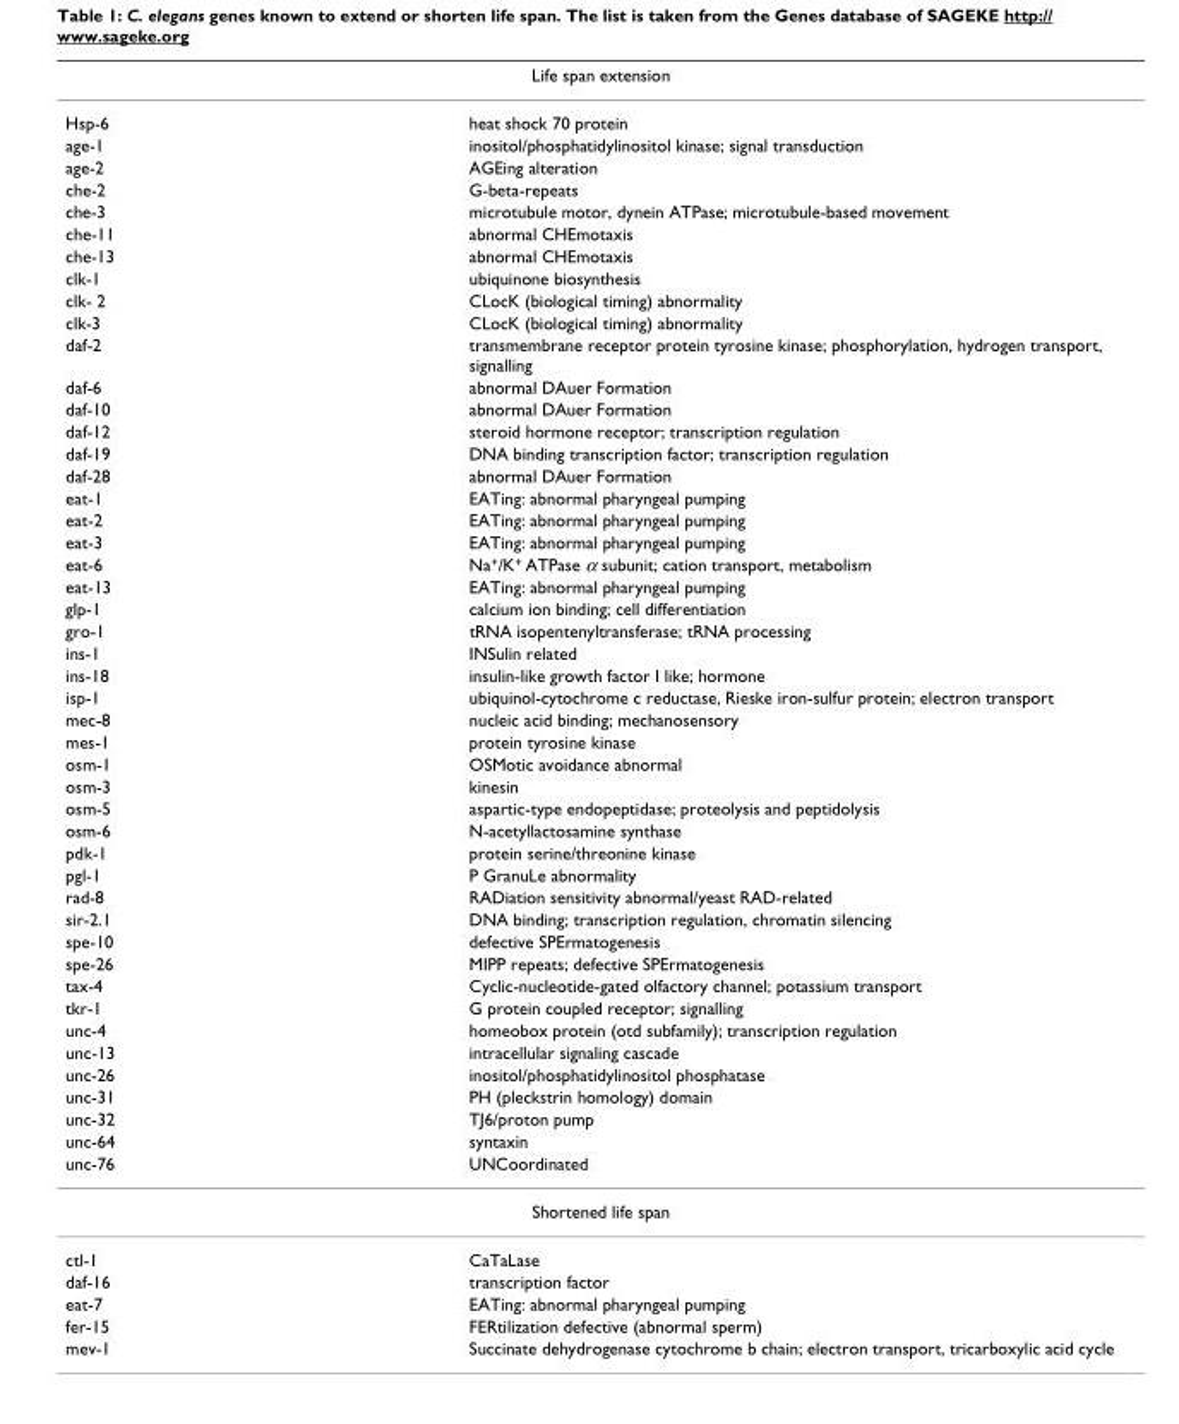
<table><thead><tr><td colspan="2">Life span extension</td></tr><tr><td>Hsp-6</td><td>heat shock 70 protein</td></tr></thead><tbody><tr><td>age-1</td><td>inositol/phosphatidylinositol kinase; signal transduction</td></tr><tr><td>age-2</td><td>AGEing alteration</td></tr><tr><td>che-2</td><td>G-beta-repeats</td></tr><tr><td>che-3</td><td>microtubule motor, dynein ATPase; microtubule-based movement</td></tr><tr><td>che-11</td><td>abnormal CHEmotaxis</td></tr><tr><td>che-13</td><td>abnormal CHEmotaxis</td></tr><tr><td>clk-1</td><td>ubiquinone biosynthesis</td></tr><tr><td>clk- 2</td><td>CLocK (biological timing) abnormality</td></tr><tr><td>clk-3</td><td>CLocK (biological timing) abnormality</td></tr><tr><td>daf-2</td><td>transmembrane receptor protein tyrosine kinase; phosphorylation, hydrogen transport, signalling</td></tr><tr><td>daf-6</td><td>abnormal DAuer Formation</td></tr><tr><td>daf-10</td><td>abnormal DAuer Formation</td></tr><tr><td>daf-12</td><td>steroid hormone receptor; transcription regulation</td></tr><tr><td>daf-19</td><td>DNA binding transcription factor; transcription regulation</td></tr><tr><td>daf-28</td><td>abnormal DAuer Formation</td></tr><tr><td>eat-1</td><td>EATing: abnormal pharyngeal pumping</td></tr><tr><td>eat-2</td><td>EATing: abnormal pharyngeal pumping</td></tr><tr><td>eat-3</td><td>EATing: abnormal pharyngeal pumping</td></tr><tr><td>eat-6</td><td>Na<sup>+</sup>/K<sup>+</sup> ATPase α subunit; cation transport, metabolism</td></tr><tr><td>eat-13</td><td>EATing: abnormal pharyngeal pumping</td></tr><tr><td>glp-1</td><td>calcium ion binding; cell differentiation</td></tr><tr><td>gro-1</td><td>tRNA isopentenyltransferase; tRNA processing</td></tr><tr><td>ins-1</td><td>INSulin related</td></tr><tr><td>ins-18</td><td>insulin-like growth factor I like; hormone</td></tr><tr><td>isp-1</td><td>ubiquinol-cytochrome c reductase, Rieske iron-sulfur protein; electron transport</td></tr><tr><td>mec-8</td><td>nucleic acid binding; mechanosensory</td></tr><tr><td>mes-1</td><td>protein tyrosine kinase</td></tr><tr><td>osm-1</td><td>OSMotic avoidance abnormal</td></tr><tr><td>osm-3</td><td>kinesin</td></tr><tr><td>osm-5</td><td>aspartic-type endopeptidase; proteolysis and peptidolysis</td></tr><tr><td>osm-6</td><td>N-acetyllactosamine synthase</td></tr><tr><td>pdk-1</td><td>protein serine/threonine kinase</td></tr><tr><td>pgl-1</td><td>P GranuLe abnormality</td></tr><tr><td>rad-8</td><td>RADiation sensitivity abnormal/yeast RAD-related</td></tr><tr><td>sir-2.1</td><td>DNA binding; transcription regulation, chromatin silencing</td></tr><tr><td>spe-10</td><td>defective SPErmatogenesis</td></tr><tr><td>spe-26</td><td>MIPP repeats; defective SPErmatogenesis</td></tr><tr><td>tax-4</td><td>Cyclic-nucleotide-gated olfactory channel; potassium transport</td></tr><tr><td>tkr-1</td><td>G protein coupled receptor; signalling</td></tr><tr><td>unc-4</td><td>homeobox protein (otd subfamily); transcription regulation</td></tr><tr><td>unc-13</td><td>intracellular signaling cascade</td></tr><tr><td>unc-26</td><td>inositol/phosphatidylinositol phosphatase</td></tr><tr><td>unc-31</td><td>PH (pleckstrin homology) domain</td></tr><tr><td>unc-32</td><td>TJ6/proton pump</td></tr><tr><td>unc-64</td><td>syntaxin</td></tr><tr><td>unc-76</td><td>UNCoordinated</td></tr><tr><td colspan="2">Shortened life span</td></tr><tr><td>ctl-1</td><td>CaTaLase</td></tr><tr><td>daf-16</td><td>transcription factor</td></tr><tr><td>eat-7</td><td>EATing: abnormal pharyngeal pumping</td></tr><tr><td>fer-15</td><td>FERtilization defective (abnormal sperm)</td></tr><tr><td>mev-1</td><td>Succinate dehydrogenase cytochrome b chain; electron transport, tricarboxylic acid cycle</td></tr></tbody></table>